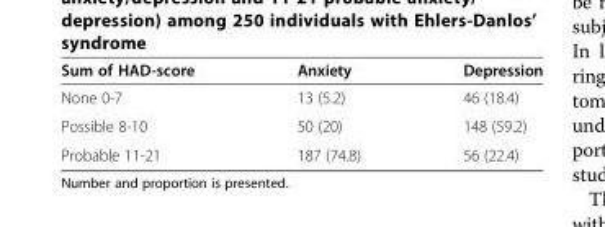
<table><thead><tr><td>Sum of HAD-score</td><td>Anxiety</td><td>Depression</td></tr></thead><tbody><tr><td>None 0-7</td><td>13 (5.2)</td><td>46 (18.4)</td></tr><tr><td>Possible 8-10</td><td>50 (20)</td><td>148 (59.2)</td></tr><tr><td>Probable 11-21</td><td>187 (74.8)</td><td>56 (22.4)</td></tr></tbody></table>